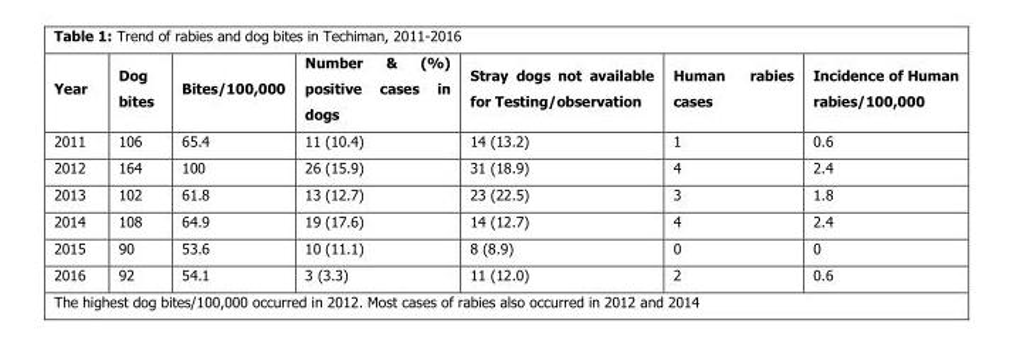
<table><thead><tr><td>Year</td><td>Dog bites</td><td>Bites/100,000</td><td>Number &amp; (%) positive cases in dogs</td><td>Stray dogs not available for Testing/observation</td><td>Human rabies cases</td><td>Incidence of Human rabies/100,000</td></tr></thead><tbody><tr><td>2011</td><td>106</td><td>65.4</td><td>11 (10.4)</td><td>14 (13.2)</td><td>1</td><td>0.6</td></tr><tr><td>2012</td><td>164</td><td>100</td><td>26 (15.9)</td><td>31 (18.9)</td><td>4</td><td>2.4</td></tr><tr><td>2013</td><td>102</td><td>61.8</td><td>13 (12.7)</td><td>23 (22.5)</td><td>3</td><td>1.8</td></tr><tr><td>2014</td><td>108</td><td>64.9</td><td>19 (17.6)</td><td>14 (12.7)</td><td>4</td><td>2.4</td></tr><tr><td>2015</td><td>90</td><td>53.6</td><td>10 (11.1)</td><td>8 (8.9)</td><td>0</td><td>0</td></tr><tr><td>2016</td><td>92</td><td>54.1</td><td>3 (3.3)</td><td>11 (12.0)</td><td>2</td><td>0.6</td></tr></tbody></table>